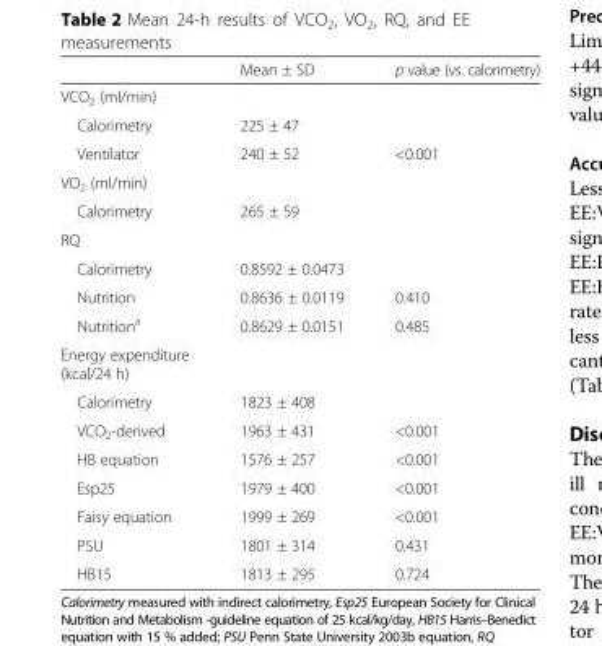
<table><thead><tr><td></td><td>Mean ± SD</td><td>p value (vs. calorimetry)</td></tr></thead><tbody><tr><td colspan="3">VCO<sub>2</sub> (ml/min)</td></tr><tr><td>Calorimetry</td><td>225 ± 47</td><td></td></tr><tr><td>Ventilator</td><td>240 ± 52</td><td>&lt;0.001</td></tr><tr><td colspan="3">VO<sub>2</sub> (ml/min)</td></tr><tr><td>Calorimetry</td><td>265 ± 59</td><td></td></tr><tr><td colspan="3">RQ</td></tr><tr><td>Calorimetry</td><td>0.8592 ± 0.0473</td><td></td></tr><tr><td>Nutrition</td><td>0.8636 ± 0.0119</td><td>0.410</td></tr><tr><td>Nutrition<sup>a</sup></td><td>0.8629 ± 0.0151</td><td>0.485</td></tr><tr><td colspan="3">Energy expenditure (kcal/24 h)</td></tr><tr><td>Calorimetry</td><td>1823 ± 408</td><td></td></tr><tr><td>VCO<sub>2</sub>-derived</td><td>1963 ± 431</td><td>&lt;0.001</td></tr><tr><td>HB equation</td><td>1576 ± 257</td><td>&lt;0.001</td></tr><tr><td>Esp25</td><td>1979 ± 400</td><td>&lt;0.001</td></tr><tr><td>Faisy equation</td><td>1999 ± 269</td><td>&lt;0.001</td></tr><tr><td>PSU</td><td>1801 ± 314</td><td>0.431</td></tr><tr><td>HB15</td><td>1813 ± 295</td><td>0.724</td></tr></tbody></table>